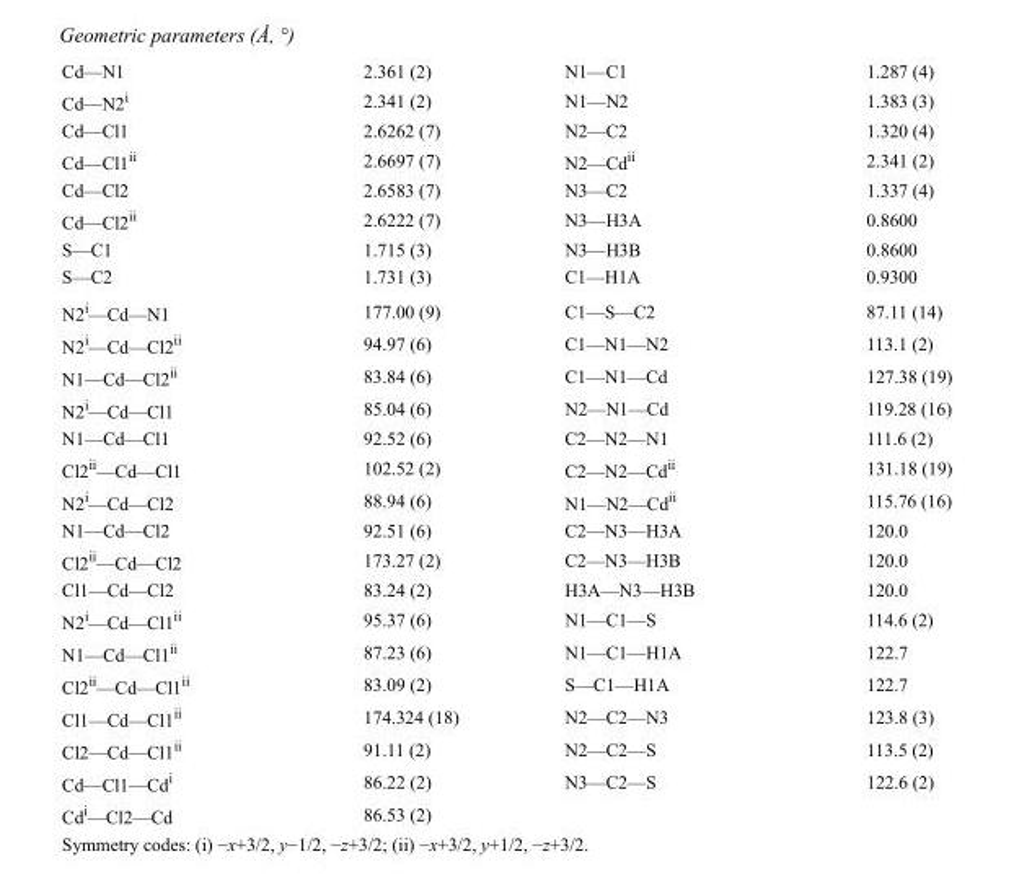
<table><tbody><tr><td>Cd—N1</td><td>2.361 (2)</td><td>N1—C1</td><td>1.287 (4)</td></tr><tr><td>Cd—N2<sup>i</sup></td><td>2.341 (2)</td><td>N1—N2</td><td>1.383 (3)</td></tr><tr><td>Cd—Cl1</td><td>2.6262 (7)</td><td>N2—C2</td><td>1.320 (4)</td></tr><tr><td>Cd—Cl1<sup>ii</sup></td><td>2.6697 (7)</td><td>N2—Cd<sup>ii</sup></td><td>2.341 (2)</td></tr><tr><td>Cd—Cl2</td><td>2.6583 (7)</td><td>N3—C2</td><td>1.337 (4)</td></tr><tr><td>Cd—Cl2<sup>ii</sup></td><td>2.6222 (7)</td><td>N3—H3A</td><td>0.8600</td></tr><tr><td>S—C1</td><td>1.715 (3)</td><td>N3—H3B</td><td>0.8600</td></tr><tr><td>S—C2</td><td>1.731 (3)</td><td>C1—H1A</td><td>0.9300</td></tr><tr><td>N2<sup>i</sup>—Cd—N1</td><td>177.00 (9)</td><td>C1—S—C2</td><td>87.11 (14)</td></tr><tr><td>N2<sup>i</sup>—Cd—Cl2<sup>ii</sup></td><td>94.97 (6)</td><td>C1—N1—N2</td><td>113.1 (2)</td></tr><tr><td>N1—Cd—Cl2<sup>ii</sup></td><td>83.84 (6)</td><td>C1—N1—Cd</td><td>127.38 (19)</td></tr><tr><td>N2<sup>i</sup>—Cd—Cl1</td><td>85.04 (6)</td><td>N2—N1—Cd</td><td>119.28 (16)</td></tr><tr><td>N1—Cd—Cl1</td><td>92.52 (6)</td><td>C2—N2—N1</td><td>111.6 (2)</td></tr><tr><td>Cl2<sup>ii</sup>—Cd—Cl1</td><td>102.52 (2)</td><td>C2—N2—Cd<sup>ii</sup></td><td>131.18 (19)</td></tr><tr><td>N2<sup>i</sup>—Cd—Cl2</td><td>88.94 (6)</td><td>N1—N2—Cd<sup>ii</sup></td><td>115.76 (16)</td></tr><tr><td>N1—Cd—Cl2</td><td>92.51 (6)</td><td>C2—N3—H3A</td><td>120.0</td></tr><tr><td>Cl2<sup>ii</sup>—Cd—Cl2</td><td>173.27 (2)</td><td>C2—N3—H3B</td><td>120.0</td></tr><tr><td>Cl1—Cd—Cl2</td><td>83.24 (2)</td><td>H3A—N3—H3B</td><td>120.0</td></tr><tr><td>N2<sup>i</sup>—Cd—Cl1<sup>ii</sup></td><td>95.37 (6)</td><td>N1—C1—S</td><td>114.6 (2)</td></tr><tr><td>N1—Cd—Cl1<sup>ii</sup></td><td>87.23 (6)</td><td>N1—C1—H1A</td><td>122.7</td></tr><tr><td>Cl2<sup>ii</sup>—Cd—Cl1<sup>ii</sup></td><td>83.09 (2)</td><td>S—C1—H1A</td><td>122.7</td></tr><tr><td>Cl1—Cd—Cl1<sup>ii</sup></td><td>174.324 (18)</td><td>N2—C2—N3</td><td>123.8 (3)</td></tr><tr><td>Cl2—Cd—Cl1<sup>ii</sup></td><td>91.11 (2)</td><td>N2—C2—S</td><td>113.5 (2)</td></tr><tr><td>Cd—Cl1—Cd<sup>i</sup></td><td>86.22 (2)</td><td>N3—C2—S</td><td>122.6 (2)</td></tr><tr><td>Cd<sup>i</sup>—Cl2—Cd</td><td>86.53 (2)</td><td></td><td></td></tr></tbody></table>